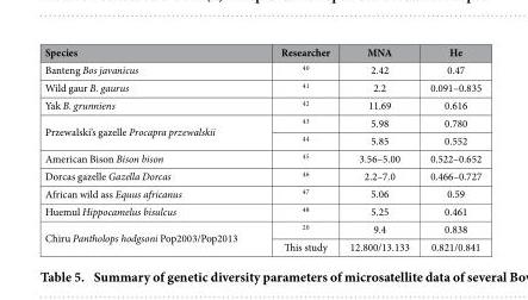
<table><thead><tr><td>Species</td><td>Researcher</td><td>MNA</td><td>He</td></tr></thead><tbody><tr><td>Banteng Bos javanicus</td><td>40</td><td>2.42</td><td>0.47</td></tr><tr><td>Wild gaur B. gaurus</td><td>41</td><td>2.2</td><td>0.091–0.835</td></tr><tr><td>Yak B. grunniens</td><td>42</td><td>11.69</td><td>0.616</td></tr><tr><td rowspan="2">Przewalski’s gazelle Procapra przewalskii</td><td>43</td><td>5.98</td><td>0.780</td></tr><tr><td>44</td><td>5.85</td><td>0.552</td></tr><tr><td>American Bison Bison bison</td><td>45</td><td>3.56–5.00</td><td>0.522–0.652</td></tr><tr><td>Dorcas gazelle Gazella Dorcas</td><td>46</td><td>2.2–7.0</td><td>0.466–0.727</td></tr><tr><td>African wild ass Equus africanus</td><td>47</td><td>5.06</td><td>0.59</td></tr><tr><td>Huemul Hippocamelus bisulcus</td><td>48</td><td>5.25</td><td>0.461</td></tr><tr><td rowspan="2">Chiru Pantholops hodgsoni Pop2003/Pop2013</td><td>20</td><td>9.4</td><td>0.838</td></tr><tr><td>This study</td><td>12.800/13.133</td><td>0.821/0.841</td></tr></tbody></table>